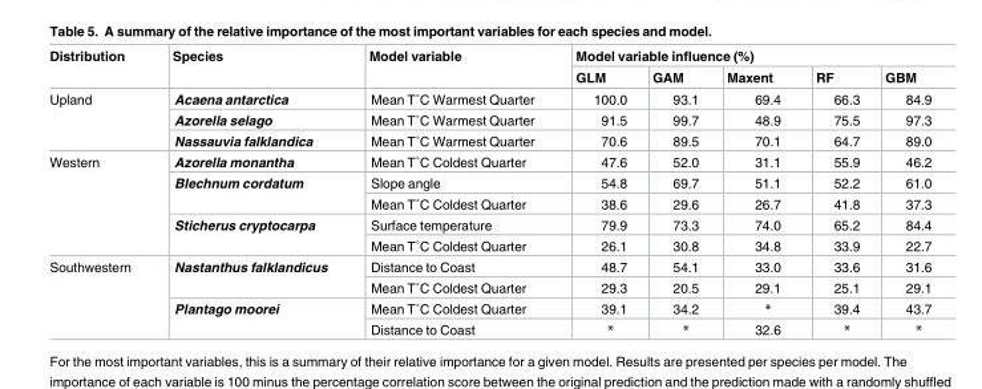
<table><thead><tr><td rowspan="2">Distribution</td><td rowspan="2">Species</td><td rowspan="2">Model variable</td><td colspan="5">Model variable influence (%)</td></tr><tr><td>GLM</td><td>GAM</td><td>Maxent</td><td>RF</td><td>GBM</td></tr></thead><tbody><tr><td rowspan="3">Upland</td><td>Acaena antarctica</td><td>Mean T˚C Warmest Quarter</td><td>100.0</td><td>93.1</td><td>69.4</td><td>66.3</td><td>84.9</td></tr><tr><td>Azorella selago</td><td>Mean T˚C Warmest Quarter</td><td>91.5</td><td>99.7</td><td>48.9</td><td>75.5</td><td>97.3</td></tr><tr><td>Nassauvia falklandica</td><td>Mean T˚C Warmest Quarter</td><td>70.6</td><td>89.5</td><td>70.1</td><td>64.7</td><td>89.0</td></tr><tr><td rowspan="5">Western</td><td>Azorella monantha</td><td>Mean T˚C Coldest Quarter</td><td>47.6</td><td>52.0</td><td>31.1</td><td>55.9</td><td>46.2</td></tr><tr><td rowspan="2">Blechnum cordatum</td><td>Slope angle</td><td>54.8</td><td>69.7</td><td>51.1</td><td>52.2</td><td>61.0</td></tr><tr><td>Mean T˚C Coldest Quarter</td><td>38.6</td><td>29.6</td><td>26.7</td><td>41.8</td><td>37.3</td></tr><tr><td rowspan="2">Sticherus cryptocarpa</td><td>Surface temperature</td><td>79.9</td><td>73.3</td><td>74.0</td><td>65.2</td><td>84.4</td></tr><tr><td>Mean T˚C Coldest Quarter</td><td>26.1</td><td>30.8</td><td>34.8</td><td>33.9</td><td>22.7</td></tr><tr><td rowspan="4">Southwestern</td><td rowspan="2">Nastanthus falklandicus</td><td>Distance to Coast</td><td>48.7</td><td>54.1</td><td>33.0</td><td>33.6</td><td>31.6</td></tr><tr><td>Mean T˚C Coldest Quarter</td><td>29.3</td><td>20.5</td><td>29.1</td><td>25.1</td><td>29.1</td></tr><tr><td rowspan="2">Plantago moorei</td><td>Mean T˚C Coldest Quarter</td><td>39.1</td><td>34.2</td><td>*</td><td>39.4</td><td>43.7</td></tr><tr><td>Distance to Coast</td><td>*</td><td>*</td><td>32.6</td><td>*</td><td>*</td></tr></tbody></table>